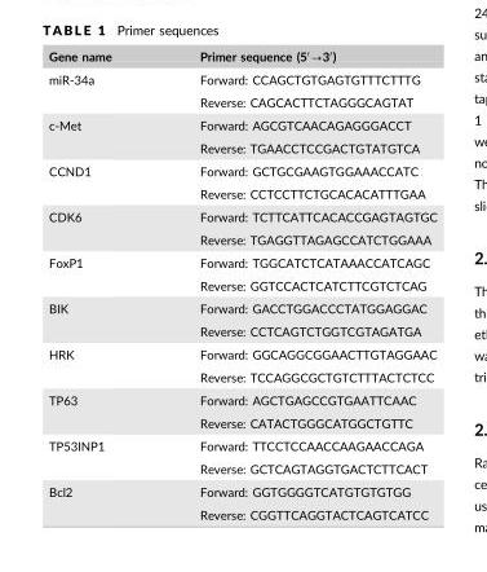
<table><thead><tr><td>Gene name</td><td>Primer sequence (5′→3′)</td></tr></thead><tbody><tr><td rowspan="2">miR-34a</td><td>Forward: CCAGCTGTGAGTGTTTCTTTG</td></tr><tr><td>Reverse: CAGCACTTCTAGGGCAGTAT</td></tr><tr><td rowspan="2">c-Met</td><td>Forward: AGCGTCAACAGAGGGACCT</td></tr><tr><td>Reverse: TGAACCTCCGACTGTATGTCA</td></tr><tr><td rowspan="2">CCND1</td><td>Forward: GCTGCGAAGTGGAAACCATC</td></tr><tr><td>Reverse: CCTCCTTCTGCACACATTTGAA</td></tr><tr><td rowspan="2">CDK6</td><td>Forward: TCTTCATTCACACCGAGTAGTGC</td></tr><tr><td>Reverse: TGAGGTTAGAGCCATCTGGAAA</td></tr><tr><td rowspan="2">FoxP1</td><td>Forward: TGGCATCTCATAAACCATCAGC</td></tr><tr><td>Reverse: GGTCCACTCATCTTCGTCTCAG</td></tr><tr><td rowspan="2">BIK</td><td>Forward: GACCTGGACCCTATGGAGGAC</td></tr><tr><td>Reverse: CCTCAGTCTGGTCGTAGATGA</td></tr><tr><td rowspan="2">HRK</td><td>Forward: GGCAGGCGGAACTTGTAGGAAC</td></tr><tr><td>Reverse: TCCAGGCGCTGTCTTTACTCTCC</td></tr><tr><td rowspan="2">TP63</td><td>Forward: AGCTGAGCCGTGAATTCAAC</td></tr><tr><td>Reverse: CATACTGGGCATGGCTGTTC</td></tr><tr><td rowspan="2">TP53INP1</td><td>Forward: TTCCTCCAACCAAGAACCAGA</td></tr><tr><td>Reverse: GCTCAGTAGGTGACTCTTCACT</td></tr><tr><td rowspan="2">Bcl2</td><td>Forward: GGTGGGGTCATGTGTGTGG</td></tr><tr><td>Reverse: CGGTTCAGGTACTCAGTCATCC</td></tr></tbody></table>